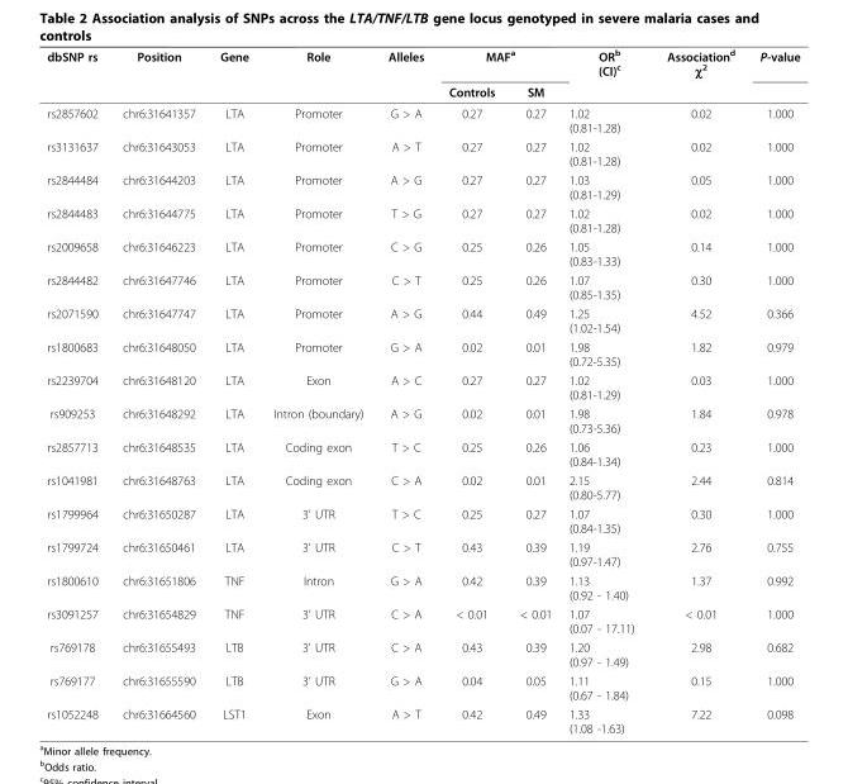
<table><thead><tr><td rowspan="2">dbSNP rs</td><td rowspan="2">Position</td><td rowspan="2">Gene</td><td rowspan="2">Role</td><td rowspan="2">Alleles</td><td colspan="2">MAF<sup>a</sup></td><td rowspan="2">OR<sup>b</sup> (CI)<sup>c</sup></td><td rowspan="2">Association<sup>d</sup> χ<sup>2</sup></td><td rowspan="2">P-value</td></tr><tr><td>Controls</td><td>SM</td></tr></thead><tbody><tr><td>rs2857602</td><td>chr6:31641357</td><td>LTA</td><td>Promoter</td><td>G &gt; A</td><td>0.27</td><td>0.27</td><td>1.02 (0.81-1.28)</td><td>0.02</td><td>1.000</td></tr><tr><td>rs3131637</td><td>chr6:31643053</td><td>LTA</td><td>Promoter</td><td>A &gt; T</td><td>0.27</td><td>0.27</td><td>1.02 (0.81-1.28)</td><td>0.02</td><td>1.000</td></tr><tr><td>rs2844484</td><td>chr6:31644203</td><td>LTA</td><td>Promoter</td><td>A &gt; G</td><td>0.27</td><td>0.27</td><td>1.03 (0.81-1.29)</td><td>0.05</td><td>1.000</td></tr><tr><td>rs2844483</td><td>chr6:31644775</td><td>LTA</td><td>Promoter</td><td>T &gt; G</td><td>0.27</td><td>0.27</td><td>1.02 (0.81-1.28)</td><td>0.02</td><td>1.000</td></tr><tr><td>rs2009658</td><td>chr6:31646223</td><td>LTA</td><td>Promoter</td><td>C &gt; G</td><td>0.25</td><td>0.26</td><td>1.05 (0.83-1.33)</td><td>0.14</td><td>1.000</td></tr><tr><td>rs2844482</td><td>chr6:31647746</td><td>LTA</td><td>Promoter</td><td>C &gt; T</td><td>0.25</td><td>0.26</td><td>1.07 (0.85-1.35)</td><td>0.30</td><td>1.000</td></tr><tr><td>rs2071590</td><td>chr6:31647747</td><td>LTA</td><td>Promoter</td><td>A &gt; G</td><td>0.44</td><td>0.49</td><td>1.25 (1.02-1.54)</td><td>4.52</td><td>0.366</td></tr><tr><td>rs1800683</td><td>chr6:31648050</td><td>LTA</td><td>Promoter</td><td>G &gt; A</td><td>0.02</td><td>0.01</td><td>1.98 (0.72-5.35)</td><td>1.82</td><td>0.979</td></tr><tr><td>rs2239704</td><td>chr6:31648120</td><td>LTA</td><td>Exon</td><td>A &gt; C</td><td>0.27</td><td>0.27</td><td>1.02 (0.81-1.29)</td><td>0.03</td><td>1.000</td></tr><tr><td>rs909253</td><td>chr6:31648292</td><td>LTA</td><td>Intron (boundary)</td><td>A &gt; G</td><td>0.02</td><td>0.01</td><td>1.98 (0.73-5.36)</td><td>1.84</td><td>0.978</td></tr><tr><td>rs2857713</td><td>chr6:31648535</td><td>LTA</td><td>Coding exon</td><td>T &gt; C</td><td>0.25</td><td>0.26</td><td>1.06 (0.84-1.34)</td><td>0.23</td><td>1.000</td></tr><tr><td>rs1041981</td><td>chr6:31648763</td><td>LTA</td><td>Coding exon</td><td>C &gt; A</td><td>0.02</td><td>0.01</td><td>2.15 (0.80-5.77)</td><td>2.44</td><td>0.814</td></tr><tr><td>rs1799964</td><td>chr6:31650287</td><td>LTA</td><td>3’ UTR</td><td>T &gt; C</td><td>0.25</td><td>0.27</td><td>1.07 (0.84-1.35)</td><td>0.30</td><td>1.000</td></tr><tr><td>rs1799724</td><td>chr6:31650461</td><td>LTA</td><td>3’ UTR</td><td>C &gt; T</td><td>0.43</td><td>0.39</td><td>1.19 (0.97-1.47)</td><td>2.76</td><td>0.755</td></tr><tr><td>rs1800610</td><td>chr6:31651806</td><td>TNF</td><td>Intron</td><td>G &gt; A</td><td>0.42</td><td>0.39</td><td>1.13 (0.92 - 1.40)</td><td>1.37</td><td>0.992</td></tr><tr><td>rs3091257</td><td>chr6:31654829</td><td>TNF</td><td>3’ UTR</td><td>C &gt; A</td><td>&lt; 0.01</td><td>&lt; 0.01</td><td>1.07 (0.07 - 17.11)</td><td>&lt; 0.01</td><td>1.000</td></tr><tr><td>rs769178</td><td>chr6:31655493</td><td>LTB</td><td>3’ UTR</td><td>C &gt; A</td><td>0.43</td><td>0.39</td><td>1.20 (0.97 - 1.49)</td><td>2.98</td><td>0.682</td></tr><tr><td>rs769177</td><td>chr6:31655590</td><td>LTB</td><td>3’ UTR</td><td>G &gt; A</td><td>0.04</td><td>0.05</td><td>1.11 (0.67 - 1.84)</td><td>0.15</td><td>1.000</td></tr><tr><td>rs1052248</td><td>chr6:31664560</td><td>LST1</td><td>Exon</td><td>A &gt; T</td><td>0.42</td><td>0.49</td><td>1.33 (1.08 -1.63)</td><td>7.22</td><td>0.098</td></tr></tbody></table>